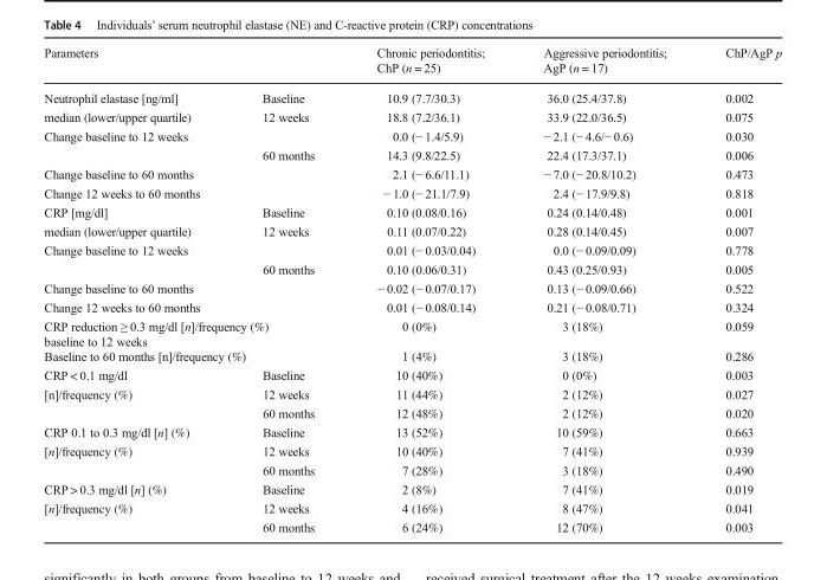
<table><thead><tr><td>Parameters</td><td></td><td>Chronic periodontitis; ChP (n = 25)</td><td>Aggressive periodontitis; AgP (n = 17)</td><td>ChP/AgP p</td></tr></thead><tbody><tr><td>Neutrophil elastase [ng/ml]</td><td>Baseline</td><td>10.9 (7.7/30.3)</td><td>36.0 (25.4/37.8)</td><td>0.002</td></tr><tr><td>median (lower/upper quartile)</td><td>12 weeks</td><td>18.8 (7.2/36.1)</td><td>33.9 (22.0/36.5)</td><td>0.075</td></tr><tr><td rowspan="2">Change baseline to 12 weeks</td><td></td><td>0.0 (− 1.4/5.9)</td><td>− 2.1 (− 4.6/− 0.6)</td><td>0.030</td></tr><tr><td>60 months</td><td>14.3 (9.8/22.5)</td><td>22.4 (17.3/37.1)</td><td>0.006</td></tr><tr><td>Change baseline to 60 months</td><td></td><td>2.1 (− 6.6/11.1)</td><td>− 7.0 (− 20.8/10.2)</td><td>0.473</td></tr><tr><td>Change 12 weeks to 60 months</td><td></td><td>− 1.0 (− 21.1/7.9)</td><td>2.4 (− 17.9/9.8)</td><td>0.818</td></tr><tr><td>CRP [mg/dl]</td><td>Baseline</td><td>0.10 (0.08/0.16)</td><td>0.24 (0.14/0.48)</td><td>0.001</td></tr><tr><td>median (lower/upper quartile)</td><td>12 weeks</td><td>0.11 (0.07/0.22)</td><td>0.28 (0.14/0.45)</td><td>0.007</td></tr><tr><td rowspan="2">Change baseline to 12 weeks</td><td></td><td>0.01 (− 0.03/0.04)</td><td>0.0 (− 0.09/0.09)</td><td>0.778</td></tr><tr><td>60 months</td><td>0.10 (0.06/0.31)</td><td>0.43 (0.25/0.93)</td><td>0.005</td></tr><tr><td>Change baseline to 60 months</td><td></td><td>− 0.02 (− 0.07/0.17)</td><td>0.13 (− 0.09/0.66)</td><td>0.522</td></tr><tr><td>Change 12 weeks to 60 months</td><td></td><td>0.01 (− 0.08/0.14)</td><td>0.21 (− 0.08/0.71)</td><td>0.324</td></tr><tr><td colspan="2">CRP reduction ≥ 0.3 mg/dl [n]/frequency (%) baseline to 12 weeks</td><td>0 (0%)</td><td>3 (18%)</td><td>0.059</td></tr><tr><td colspan="2">Baseline to 60 months [n]/frequency (%)</td><td>1 (4%)</td><td>3 (18%)</td><td>0.286</td></tr><tr><td>CRP &lt; 0.1 mg/dl</td><td>Baseline</td><td>10 (40%)</td><td>0 (0%)</td><td>0.003</td></tr><tr><td rowspan="2">[n]/frequency (%)</td><td>12 weeks</td><td>11 (44%)</td><td>2 (12%)</td><td>0.027</td></tr><tr><td>60 months</td><td>12 (48%)</td><td>2 (12%)</td><td>0.020</td></tr><tr><td>CRP 0.1 to 0.3 mg/dl [n] (%)</td><td>Baseline</td><td>13 (52%)</td><td>10 (59%)</td><td>0.663</td></tr><tr><td rowspan="2">[n]/frequency (%)</td><td>12 weeks</td><td>10 (40%)</td><td>7 (41%)</td><td>0.939</td></tr><tr><td>60 months</td><td>7 (28%)</td><td>3 (18%)</td><td>0.490</td></tr><tr><td>CRP &gt; 0.3 mg/dl [n] (%)</td><td>Baseline</td><td>2 (8%)</td><td>7 (41%)</td><td>0.019</td></tr><tr><td rowspan="2">[n]/frequency (%)</td><td>12 weeks</td><td>4 (16%)</td><td>8 (47%)</td><td>0.041</td></tr><tr><td>60 months</td><td>6 (24%)</td><td>12 (70%)</td><td>0.003</td></tr></tbody></table>